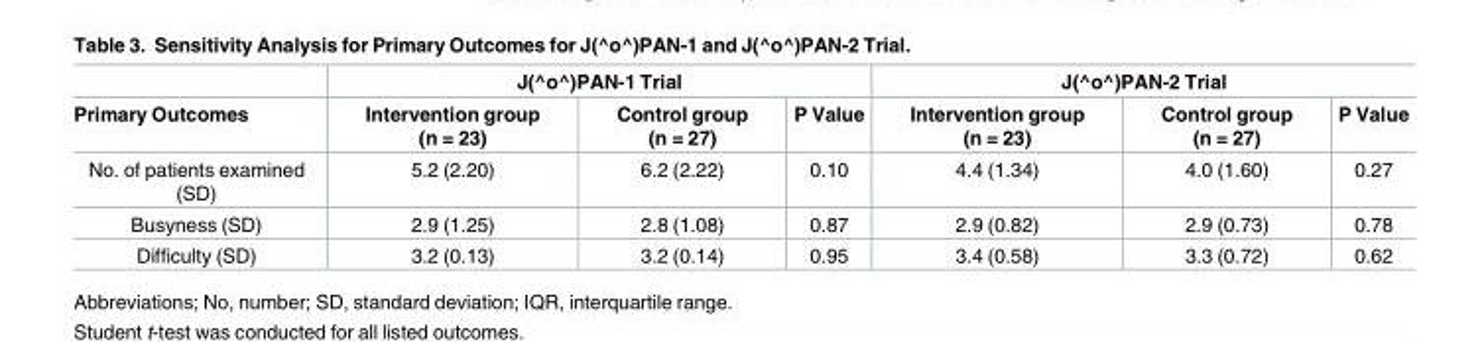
<table><thead><tr><td rowspan="2">Primary Outcomes</td><td colspan="3">J(^o^)PAN-1 Trial</td><td colspan="3">J(^o^)PAN-2 Trial</td></tr><tr><td>Intervention group (n = 23)</td><td>Control group (n = 27)</td><td>P Value</td><td>Intervention group (n = 23)</td><td>Control group (n = 27)</td><td>P Value</td></tr></thead><tbody><tr><td>No. of patients examined (SD)</td><td>5.2 (2.20)</td><td>6.2 (2.22)</td><td>0.10</td><td>4.4 (1.34)</td><td>4.0 (1.60)</td><td>0.27</td></tr><tr><td>Busyness (SD)</td><td>2.9 (1.25)</td><td>2.8 (1.08)</td><td>0.87</td><td>2.9 (0.82)</td><td>2.9 (0.73)</td><td>0.78</td></tr><tr><td>Difficulty (SD)</td><td>3.2 (0.13)</td><td>3.2 (0.14)</td><td>0.95</td><td>3.4 (0.58)</td><td>3.3 (0.72)</td><td>0.62</td></tr></tbody></table>